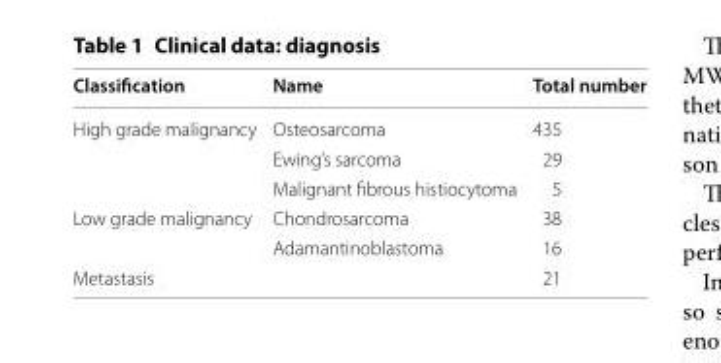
<table><thead><tr><td>Classification</td><td>Name</td><td>Total number</td></tr></thead><tbody><tr><td rowspan="3">High grade malignancy</td><td>Osteosarcoma</td><td>435</td></tr><tr><td>Ewing’s sarcoma</td><td>29</td></tr><tr><td>Malignant fibrous histiocytoma</td><td>5</td></tr><tr><td rowspan="2">Low grade malignancy</td><td>Chondrosarcoma</td><td>38</td></tr><tr><td>Adamantinoblastoma</td><td>16</td></tr><tr><td>Metastasis</td><td></td><td>21</td></tr></tbody></table>